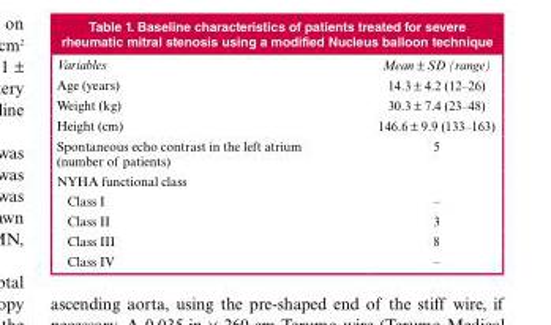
<table><thead><tr><td>Variables</td><td>Mean ± SD (range)</td></tr></thead><tbody><tr><td>Age (years)</td><td>14.3 ± 4.2 (12–26)</td></tr><tr><td>Weight (kg)</td><td>30.3 ± 7.4 (23–48)</td></tr><tr><td>Height (cm)</td><td>146.6 ± 9.9 (133–163)</td></tr><tr><td>Spontaneous echo contrast in the left atrium (number of patients)</td><td>5</td></tr><tr><td colspan="2">NYHA functional class</td></tr><tr><td colspan="2">Class I –</td></tr><tr><td>Class II</td><td>3</td></tr><tr><td>Class III</td><td>8</td></tr><tr><td>Class IV</td><td>–</td></tr></tbody></table>